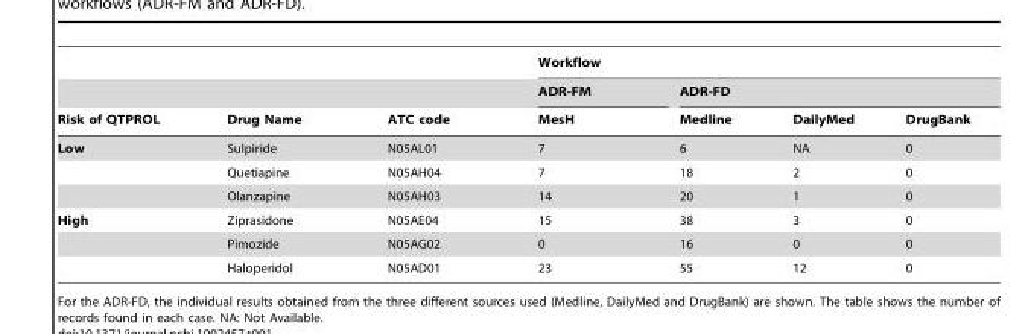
<table><thead><tr><td rowspan="3">Risk of QTPROL</td><td rowspan="3">Drug Name</td><td rowspan="3">ATC code</td><td colspan="4">Workflow</td></tr><tr><td rowspan="2">ADR-FM MesH</td><td colspan="3">ADR-FD</td></tr><tr><td>Medline</td><td>DailyMed</td><td>DrugBank</td></tr></thead><tbody><tr><td rowspan="3">Low</td><td>Sulpiride</td><td>N05AL01</td><td>7</td><td>6</td><td>NA</td><td>0</td></tr><tr><td>Quetiapine</td><td>N05AH04</td><td>7</td><td>18</td><td>2</td><td>0</td></tr><tr><td>Olanzapine</td><td>N05AH03</td><td>14</td><td>20</td><td>1</td><td>0</td></tr><tr><td rowspan="3">High</td><td>Ziprasidone</td><td>N05AE04</td><td>15</td><td>38</td><td>3</td><td>0</td></tr><tr><td>Pimozide</td><td>N05AG02</td><td>0</td><td>16</td><td>0</td><td>0</td></tr><tr><td>Haloperidol</td><td>N05AD01</td><td>23</td><td>55</td><td>12</td><td>0</td></tr></tbody></table>